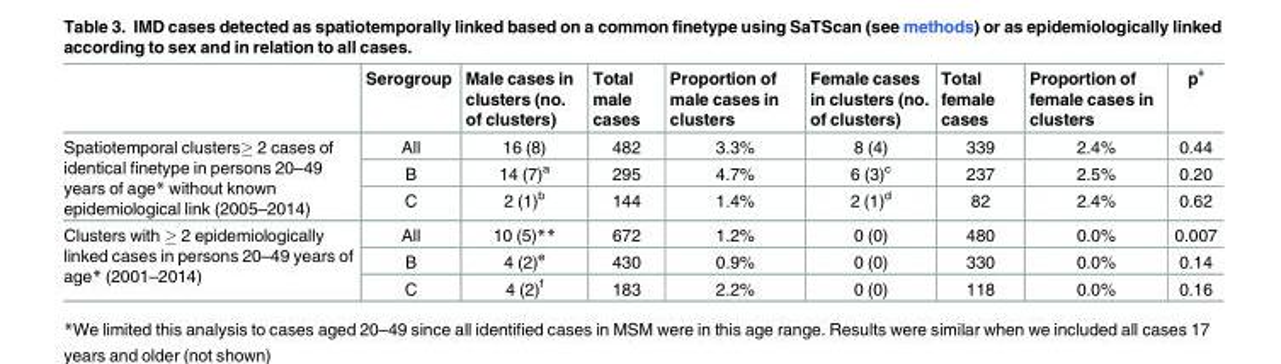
<table><thead><tr><td></td><td>Serogroup</td><td>Male cases in clusters (no. of clusters)</td><td>Total male cases</td><td>Proportion of male cases in clusters</td><td>Female cases in clusters (no. of clusters)</td><td>Total female cases</td><td>Proportion of female cases in clusters</td><td>p<sup>ǂ</sup></td></tr></thead><tbody><tr><td rowspan="3">Spatiotemporal clusters≥ 2 cases of identical finetype in persons 20–49 years of age* without known epidemiological link (2005–2014)</td><td>All</td><td>16 (8)</td><td>482</td><td>3.3%</td><td>8 (4)</td><td>339</td><td>2.4%</td><td>0.44</td></tr><tr><td>B</td><td>14 (7)<sup>a</sup></td><td>295</td><td>4.7%</td><td>6 (3)<sup>c</sup></td><td>237</td><td>2.5%</td><td>0.20</td></tr><tr><td>C</td><td>2 (1)<sup>b</sup></td><td>144</td><td>1.4%</td><td>2 (1)<sup>d</sup></td><td>82</td><td>2.4%</td><td>0.62</td></tr><tr><td rowspan="3">Clusters with ≥ 2 epidemiologically linked cases in persons 20–49 years of age* (2001–2014)</td><td>All</td><td>10 (5)**</td><td>672</td><td>1.2%</td><td>0 (0)</td><td>480</td><td>0.0%</td><td>0.007</td></tr><tr><td>B</td><td>4 (2)<sup>e</sup></td><td>430</td><td>0.9%</td><td>0 (0)</td><td>330</td><td>0.0%</td><td>0.14</td></tr><tr><td>C</td><td>4 (2)<sup>f</sup></td><td>183</td><td>2.2%</td><td>0 (0)</td><td>118</td><td>0.0%</td><td>0.16</td></tr></tbody></table>